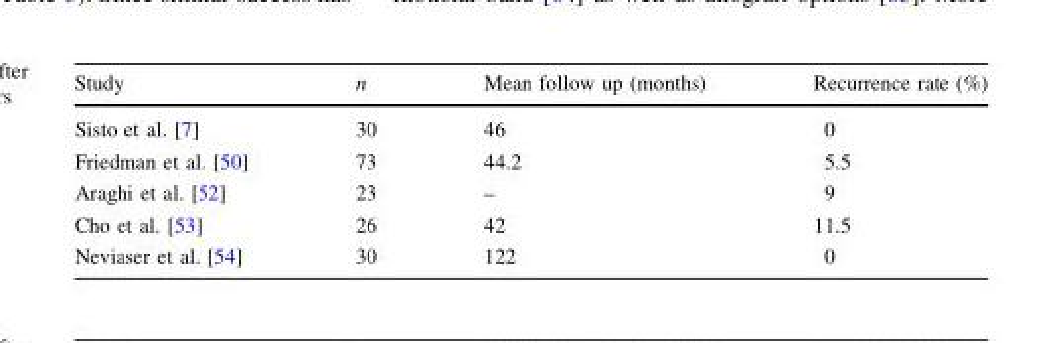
<table><thead><tr><td>Study</td><td>n</td><td>Mean follow up (months)</td><td>Recurrence rate (%)</td></tr></thead><tbody><tr><td>Sisto et al. [7]</td><td>30</td><td>46</td><td>0</td></tr><tr><td>Friedman et al. [50]</td><td>73</td><td>44.2</td><td>5.5</td></tr><tr><td>Araghi et al. [52]</td><td>23</td><td>–</td><td>9</td></tr><tr><td>Cho et al. [53]</td><td>26</td><td>42</td><td>11.5</td></tr><tr><td>Neviaser et al. [54]</td><td>30</td><td>122</td><td>0</td></tr></tbody></table>